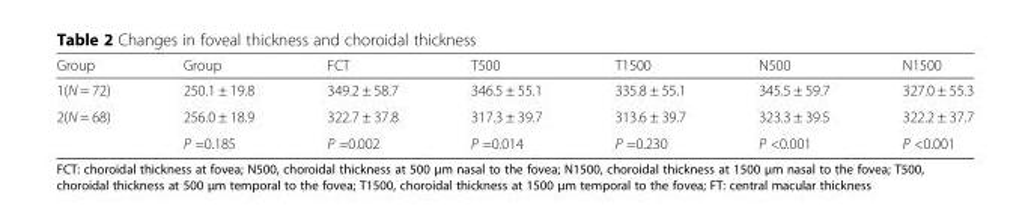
<table><thead><tr><td>Group</td><td>Group</td><td>FCT</td><td>T500</td><td>T1500</td><td>N500</td><td>N1500</td></tr></thead><tbody><tr><td>1(N = 72)</td><td>250.1 ± 19.8</td><td>349.2 ± 58.7</td><td>346.5 ± 55.1</td><td>335.8 ± 55.1</td><td>345.5 ± 59.7</td><td>327.0 ± 55.3</td></tr><tr><td rowspan="2">2(N = 68)</td><td>256.0 ± 18.9</td><td>322.7 ± 37.8</td><td>317.3 ± 39.7</td><td>313.6 ± 39.7</td><td>323.3 ± 39.5</td><td>322.2 ± 37.7</td></tr><tr><td>P =0.185</td><td>P =0.002</td><td>P =0.014</td><td>P =0.230</td><td>P &lt;0.001</td><td>P &lt;0.001</td></tr></tbody></table>